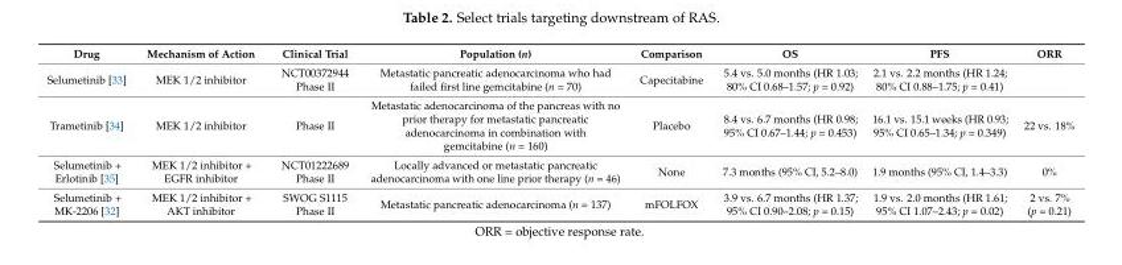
<table><thead><tr><td>Drug</td><td>Mechanism of Action</td><td>Clinical Trial</td><td>Population (n)</td><td>Comparison</td><td>OS</td><td>PFS</td><td>ORR</td></tr></thead><tbody><tr><td>Selumetinib [33]</td><td>MEK 1/2 inhibitor</td><td>NCT00372944 Phase II</td><td>Metastatic pancreatic adenocarcinoma who had failed first line gemcitabine (n = 70)</td><td>Capecitabine</td><td>5.4 vs. 5.0 months (HR 1.03; 80% CI 0.68–1.57; p = 0.92)</td><td>2.1 vs. 2.2 months (HR 1.24; 80% CI 0.88–1.75; p = 0.41)</td><td></td></tr><tr><td>Trametinib [34]</td><td>MEK 1/2 inhibitor</td><td>Phase II</td><td>Metastatic adenocarcinoma of the pancreas with no prior therapy for metastatic pancreatic adenocarcinoma in combination with gemcitabine (n = 160)</td><td>Placebo</td><td>8.4 vs. 6.7 months (HR 0.98; 95% CI 0.67–1.44; p = 0.453)</td><td>16.1 vs. 15.1 weeks (HR 0.93; 95% CI 0.65–1.34; p = 0.349)</td><td>22 vs. 18%</td></tr><tr><td>Selumetinib + Erlotinib [35]</td><td>MEK 1/2 inhibitor + EGFR inhibitor</td><td>NCT01222689 Phase II</td><td>Locally advanced or metastatic pancreatic adenocarcinoma with one line prior therapy (n = 46)</td><td>None</td><td>7.3 months (95% CI, 5.2–8.0)</td><td>1.9 months (95% CI, 1.4–3.3)</td><td>0%</td></tr><tr><td>Selumetinib + MK-2206 [32]</td><td>MEK 1/2 inhibitor + AKT inhibitor</td><td>SWOG S1115 Phase II</td><td>Metastatic pancreatic adenocarcinoma (n = 137)</td><td>mFOLFOX</td><td>3.9 vs. 6.7 months (HR 1.37; 95% CI 0.90–2.08; p = 0.15)</td><td>1.9 vs. 2.0 months (HR 1.61; 95% CI 1.07–2.43; p = 0.02)</td><td>2 vs. 7% (p = 0.21)</td></tr></tbody></table>